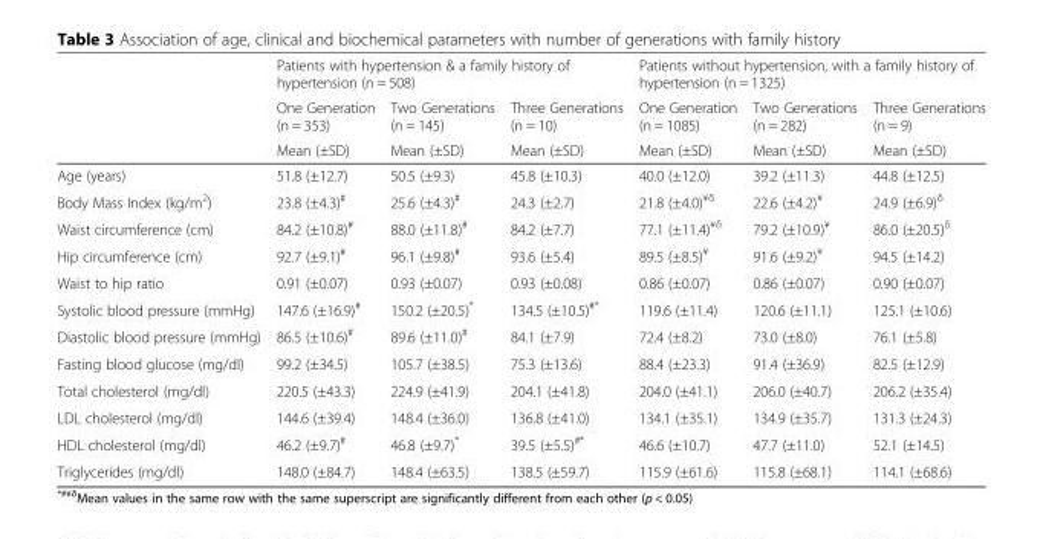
<table><thead><tr><td rowspan="3"></td><td colspan="3">Patients with hypertension &amp; a family history of hypertension (n = 508)</td><td colspan="3">Patients without hypertension, with a family history of hypertension (n = 1325)</td></tr><tr><td rowspan="2">One Generation (n = 353) Mean (±SD)</td><td rowspan="2">Two Generations (n = 145) Mean (±SD)</td><td rowspan="2">Three Generations (n = 10) Mean (±SD)</td><td rowspan="2">One Generation (n = 1085) Mean (±SD)</td><td rowspan="2">Two Generations (n = 282) Mean (±SD)</td><td rowspan="2">Three Generations (n = 9) Mean (±SD)</td></tr><tr></tr></thead><tbody><tr><td>Age (years)</td><td>51.8 (±12.7)</td><td>50.5 (±9.3)</td><td>45.8 (±10.3)</td><td>40.0 (±12.0)</td><td>39.2 (±11.3)</td><td>44.8 (±12.5)</td></tr><tr><td>Body Mass Index (kg/m<sup>2</sup>)</td><td>23.8 (±4.3)<sup>#</sup></td><td>25.6 (±4.3)<sup>#</sup></td><td>24.3 (±2.7)</td><td>21.8 (±4.0)<sup>¥δ</sup></td><td>22.6 (±4.2)<sup>¥</sup></td><td>24.9 (±6.9)<sup>δ</sup></td></tr><tr><td>Waist circumference (cm)</td><td>84.2 (±10.8)<sup>#</sup></td><td>88.0 (±11.8)<sup>#</sup></td><td>84.2 (±7.7)</td><td>77.1 (±11.4)<sup>¥δ</sup></td><td>79.2 (±10.9)<sup>¥</sup></td><td>86.0 (±20.5)<sup>δ</sup></td></tr><tr><td>Hip circumference (cm)</td><td>92.7 (±9.1)<sup>#</sup></td><td>96.1 (±9.8)<sup>#</sup></td><td>93.6 (±5.4)</td><td>89.5 (±8.5)<sup>¥</sup></td><td>91.6 (±9.2)<sup>¥</sup></td><td>94.5 (±14.2)</td></tr><tr><td>Waist to hip ratio</td><td>0.91 (±0.07)</td><td>0.93 (±0.07)</td><td>0.93 (±0.08)</td><td>0.86 (±0.07)</td><td>0.86 (±0.07)</td><td>0.90 (±0.07)</td></tr><tr><td>Systolic blood pressure (mmHg)</td><td>147.6 (±16.9)<sup>#</sup></td><td>150.2 (±20.5)*</td><td>134.5 (±10.5)<sup>#*</sup></td><td>119.6 (±11.4)</td><td>120.6 (±11.1)</td><td>125.1 (±10.6)</td></tr><tr><td>Diastolic blood pressure (mmHg)</td><td>86.5 (±10.6)<sup>#</sup></td><td>89.6 (±11.0)<sup>#</sup></td><td>84.1 (±7.9)</td><td>72.4 (±8.2)</td><td>73.0 (±8.0)</td><td>76.1 (±5.8)</td></tr><tr><td>Fasting blood glucose (mg/dl)</td><td>99.2 (±34.5)</td><td>105.7 (±38.5)</td><td>75.3 (±13.6)</td><td>88.4 (±23.3)</td><td>91.4 (±36.9)</td><td>82.5 (±12.9)</td></tr><tr><td>Total cholesterol (mg/dl)</td><td>220.5 (±43.3)</td><td>224.9 (±41.9)</td><td>204.1 (±41.8)</td><td>204.0 (±41.1)</td><td>206.0 (±40.7)</td><td>206.2 (±35.4)</td></tr><tr><td>LDL cholesterol (mg/dl)</td><td>144.6 (±39.4)</td><td>148.4 (±36.0)</td><td>136.8 (±41.0)</td><td>134.1 (±35.1)</td><td>134.9 (±35.7)</td><td>131.3 (±24.3)</td></tr><tr><td>HDL cholesterol (mg/dl)</td><td>46.2 (±9.7)<sup>#</sup></td><td>46.8 (±9.7)*</td><td>39.5 (±5.5)<sup>#*</sup></td><td>46.6 (±10.7)</td><td>47.7 (±11.0)</td><td>52.1 (±14.5)</td></tr><tr><td>Triglycerides (mg/dl)</td><td>148.0 (±84.7)</td><td>148.4 (±63.5)</td><td>138.5 (±59.7)</td><td>115.9 (±61.6)</td><td>115.8 (±68.1)</td><td>114.1 (±68.6)</td></tr></tbody></table>